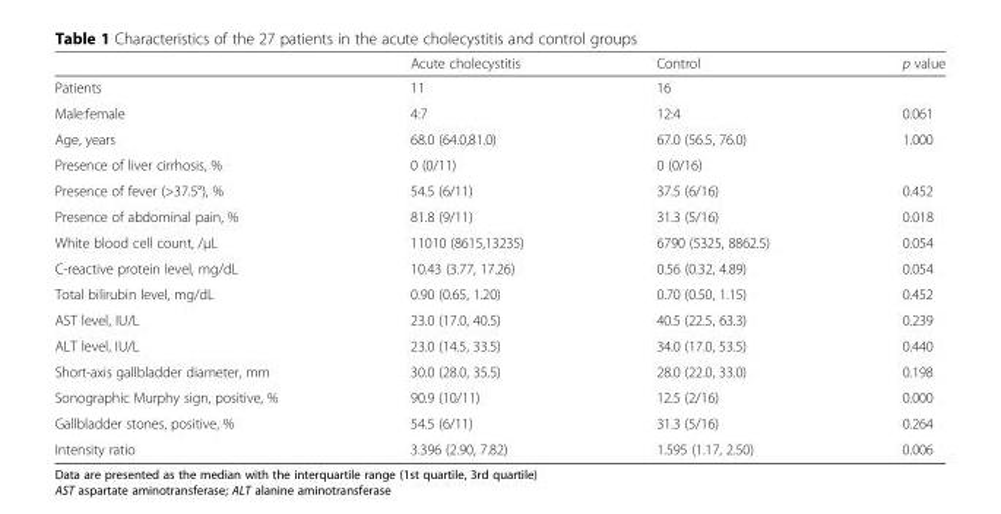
<table><thead><tr><td></td><td>Acute cholecystitis</td><td>Control</td><td>p value</td></tr></thead><tbody><tr><td>Patients</td><td>11</td><td>16</td><td></td></tr><tr><td>Male:female</td><td>4:7</td><td>12:4</td><td>0.061</td></tr><tr><td>Age, years</td><td>68.0 (64.0,81.0)</td><td>67.0 (56.5, 76.0)</td><td>1.000</td></tr><tr><td>Presence of liver cirrhosis, %</td><td>0 (0/11)</td><td>0 (0/16)</td><td></td></tr><tr><td>Presence of fever (&gt;37.5°), %</td><td>54.5 (6/11)</td><td>37.5 (6/16)</td><td>0.452</td></tr><tr><td>Presence of abdominal pain, %</td><td>81.8 (9/11)</td><td>31.3 (5/16)</td><td>0.018</td></tr><tr><td>White blood cell count, /μL</td><td>11010 (8615,13235)</td><td>6790 (5325, 8862.5)</td><td>0.054</td></tr><tr><td>C-reactive protein level, mg/dL</td><td>10.43 (3.77, 17.26)</td><td>0.56 (0.32, 4.89)</td><td>0.054</td></tr><tr><td>Total bilirubin level, mg/dL</td><td>0.90 (0.65, 1.20)</td><td>0.70 (0.50, 1.15)</td><td>0.452</td></tr><tr><td>AST level, IU/L</td><td>23.0 (17.0, 40.5)</td><td>40.5 (22.5, 63.3)</td><td>0.239</td></tr><tr><td>ALT level, IU/L</td><td>23.0 (14.5, 33.5)</td><td>34.0 (17.0, 53.5)</td><td>0.440</td></tr><tr><td>Short-axis gallbladder diameter, mm</td><td>30.0 (28.0, 35.5)</td><td>28.0 (22.0, 33.0)</td><td>0.198</td></tr><tr><td>Sonographic Murphy sign, positive, %</td><td>90.9 (10/11)</td><td>12.5 (2/16)</td><td>0.000</td></tr><tr><td>Gallbladder stones, positive, %</td><td>54.5 (6/11)</td><td>31.3 (5/16)</td><td>0.264</td></tr><tr><td>Intensity ratio</td><td>3.396 (2.90, 7.82)</td><td>1.595 (1.17, 2.50)</td><td>0.006</td></tr></tbody></table>